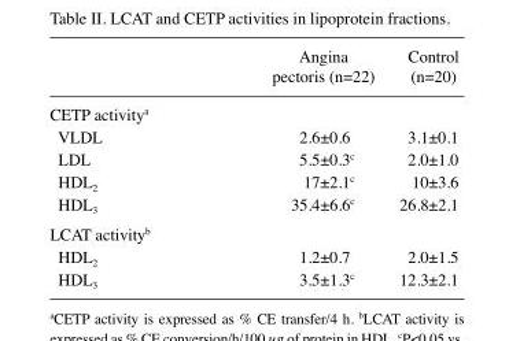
<table><thead><tr><td></td><td>Angina pectoris (n=22)</td><td>Control (n=20)</td></tr></thead><tbody><tr><td colspan="3">CETP activity<sup>a</sup></td></tr><tr><td>VLDL</td><td>2.6±0.6</td><td>3.1±0.1</td></tr><tr><td>LDL</td><td>5.5±0.3<sup>c</sup></td><td>2.0±1.0</td></tr><tr><td>HDL<sub>2</sub></td><td>17±2.1<sup>c</sup></td><td>10±3.6</td></tr><tr><td>HDL<sub>3</sub></td><td>35.4±6.6<sup>c</sup></td><td>26.8±2.1</td></tr><tr><td colspan="3">LCAT activity<sup>b</sup></td></tr><tr><td>HDL<sub>2</sub></td><td>1.2±0.7</td><td>2.0±1.5</td></tr><tr><td>HDL<sub>3</sub></td><td>3.5±1.3<sup>c</sup></td><td>12.3±2.1</td></tr></tbody></table>